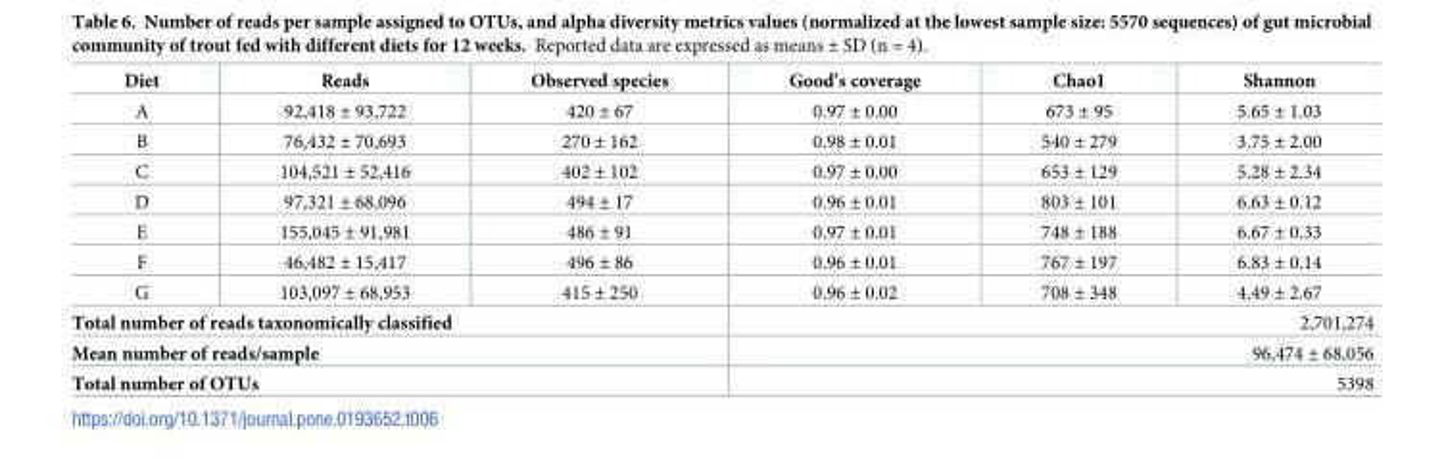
<table><thead><tr><td>Diet</td><td>Reads</td><td>Observed species</td><td>Good’s coverage</td><td>Chao1</td><td>Shannon</td></tr></thead><tbody><tr><td>A</td><td>92,418 ± 93,722</td><td>420 ± 67</td><td>0.97 ± 0.00</td><td>673 ± 95</td><td>5.65 ± 1.03</td></tr><tr><td>B</td><td>76,432 ± 70,693</td><td>270 ± 162</td><td>0.98 ± 0.01</td><td>540 ± 279</td><td>3.75 ± 2.00</td></tr><tr><td>C</td><td>104,521 ± 52,416</td><td>402 ± 102</td><td>0.97 ± 0.00</td><td>653 ± 129</td><td>5.28 ± 2.34</td></tr><tr><td>D</td><td>97,321 ± 68,096</td><td>494 ± 17</td><td>0.96 ± 0.01</td><td>803 ± 101</td><td>6.63 ± 0.12</td></tr><tr><td>E</td><td>155,045 ± 91,981</td><td>486 ± 91</td><td>0.97 ± 0.01</td><td>748 ± 188</td><td>6.67 ± 0.33</td></tr><tr><td>F</td><td>46,482 ± 15,417</td><td>496 ± 86</td><td>0.96 ± 0.01</td><td>767 ± 197</td><td>6.83 ± 0.14</td></tr><tr><td>G</td><td>103,097 ± 68,953</td><td>415 ± 250</td><td>0.96 ± 0.02</td><td>708 ± 348</td><td>4.49 ± 2.67</td></tr><tr><td colspan="3">Total number of reads taxonomically classified</td><td colspan="3">2,701,274</td></tr><tr><td colspan="3">Mean number of reads/sample</td><td colspan="3">96,474 ± 68,056</td></tr><tr><td colspan="3">Total number of OTUs</td><td colspan="3">5398</td></tr></tbody></table>